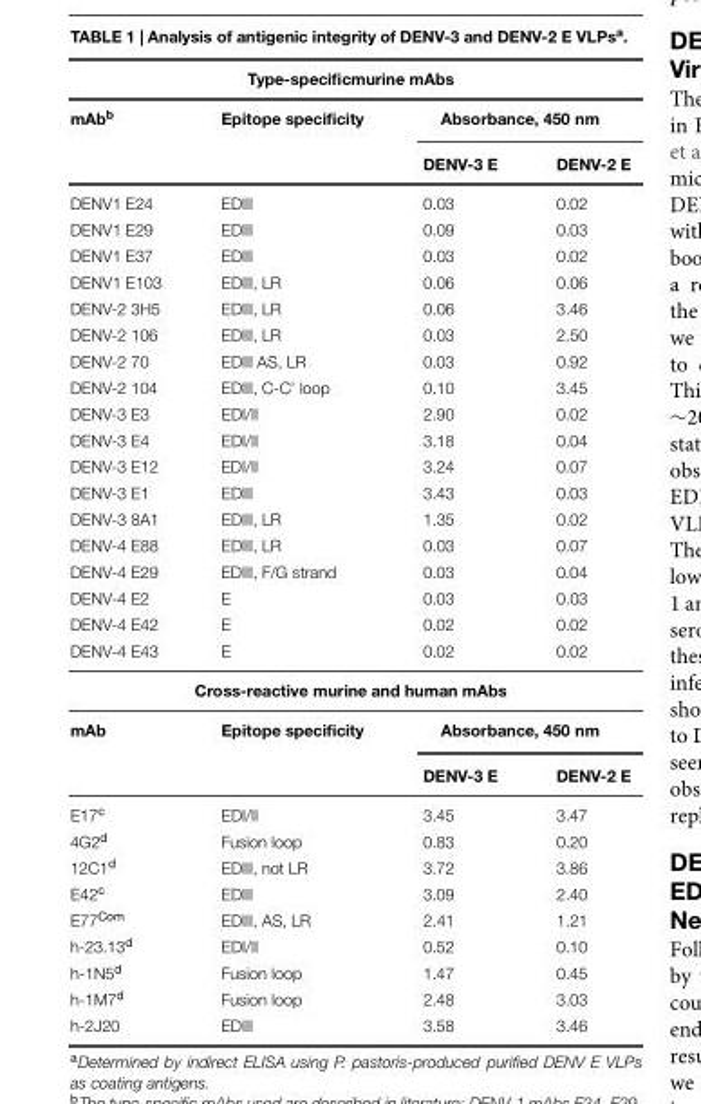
<table><thead><tr><td colspan="4">Type-specificmurine mAbs</td></tr><tr><td rowspan="2">mAb<sup>b</sup></td><td rowspan="2">Epitope specificity</td><td colspan="2">Absorbance, 450 nm</td></tr><tr><td>DENV-3 E</td><td>DENV-2 E</td></tr></thead><tbody><tr><td>DENV1 E24</td><td>EDIII</td><td>0.03</td><td>0.02</td></tr><tr><td>DENV1 E29</td><td>EDIII</td><td>0.09</td><td>0.03</td></tr><tr><td>DENV1 E37</td><td>EDIII</td><td>0.03</td><td>0.02</td></tr><tr><td>DENV1 E103</td><td>EDIII, LR</td><td>0.06</td><td>0.06</td></tr><tr><td>DENV-2 3H5</td><td>EDIII, LR</td><td>0.06</td><td>3.46</td></tr><tr><td>DENV-2 106</td><td>EDIII, LR</td><td>0.03</td><td>2.50</td></tr><tr><td>DENV-2 70</td><td>EDIII AS, LR</td><td>0.03</td><td>0.92</td></tr><tr><td>DENV-2 104</td><td>EDIII, C-C’ loop</td><td>0.10</td><td>3.45</td></tr><tr><td>DENV-3 E3</td><td>EDI/II</td><td>2.90</td><td>0.02</td></tr><tr><td>DENV-3 E4</td><td>EDI/II</td><td>3.18</td><td>0.04</td></tr><tr><td>DENV-3 E12</td><td>EDI/II</td><td>3.24</td><td>0.07</td></tr><tr><td>DENV-3 E1</td><td>EDIII</td><td>3.43</td><td>0.03</td></tr><tr><td>DENV-3 8A1</td><td>EDIII, LR</td><td>1.35</td><td>0.02</td></tr><tr><td>DENV-4 E88</td><td>EDIII, LR</td><td>0.03</td><td>0.07</td></tr><tr><td>DENV-4 E29</td><td>EDIII, F/G strand</td><td>0.03</td><td>0.04</td></tr><tr><td>DENV-4 E2</td><td>E</td><td>0.03</td><td>0.03</td></tr><tr><td>DENV-4 E42</td><td>E</td><td>0.02</td><td>0.02</td></tr><tr><td>DENV-4 E43</td><td>E</td><td>0.02</td><td>0.02</td></tr><tr><td colspan="4">Cross-reactive murine and human mAbs</td></tr><tr><td rowspan="2">mAb</td><td>Epitope specificity</td><td colspan="2">Absorbance, 450 nm</td></tr><tr><td></td><td>DENV-3 E</td><td>DENV-2 E</td></tr><tr><td>E17<sup>c</sup></td><td>EDI/II</td><td>3.45</td><td>3.47</td></tr><tr><td>4G2<sup>d</sup></td><td>Fusion loop</td><td>0.83</td><td>0.20</td></tr><tr><td>12C1<sup>d</sup></td><td>EDIII, not LR</td><td>3.72</td><td>3.86</td></tr><tr><td>E42<sup>c</sup></td><td>EDIII</td><td>3.09</td><td>2.40</td></tr><tr><td>E77<sup>Com</sup></td><td>EDIII, AS, LR</td><td>2.41</td><td>1.21</td></tr><tr><td>h-23.13<sup>d</sup></td><td>EDI/II</td><td>0.52</td><td>0.10</td></tr><tr><td>h-1N5<sup>d</sup></td><td>Fusion loop</td><td>1.47</td><td>0.45</td></tr><tr><td>h-1M7<sup>d</sup></td><td>Fusion loop</td><td>2.48</td><td>3.03</td></tr><tr><td>h-2J20</td><td>EDIII</td><td>3.58</td><td>3.46</td></tr></tbody></table>